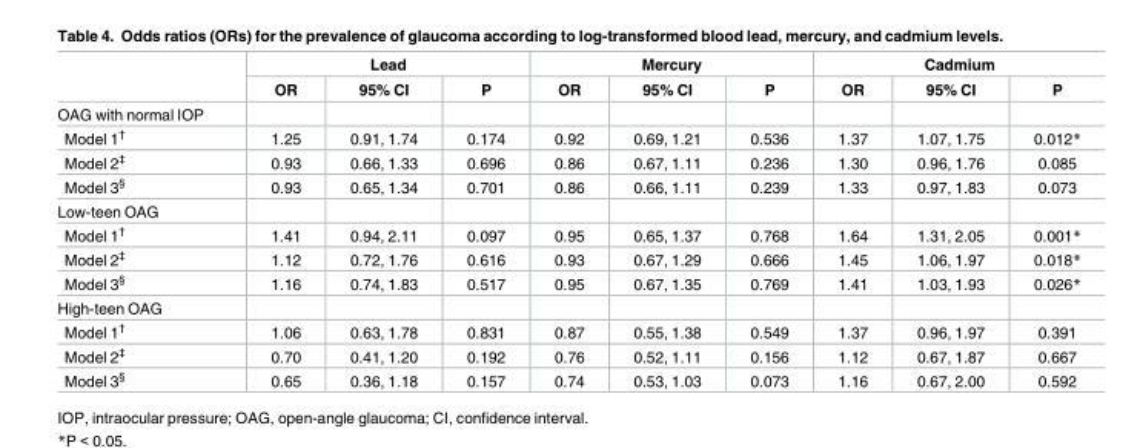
<table><thead><tr><td rowspan="2"></td><td colspan="3">Lead</td><td colspan="3">Mercury</td><td colspan="3">Cadmium</td></tr><tr><td>OR</td><td>95% CI</td><td>P</td><td>OR</td><td>95% CI</td><td>P</td><td>OR</td><td>95% CI</td><td>P</td></tr></thead><tbody><tr><td colspan="10">OAG with normal IOP</td></tr><tr><td>Model 1<sup>†</sup></td><td>1.25</td><td>0.91, 1.74</td><td>0.174</td><td>0.92</td><td>0.69, 1.21</td><td>0.536</td><td>1.37</td><td>1.07, 1.75</td><td>0.012*</td></tr><tr><td>Model 2<sup>‡</sup></td><td>0.93</td><td>0.66, 1.33</td><td>0.696</td><td>0.86</td><td>0.67, 1.11</td><td>0.236</td><td>1.30</td><td>0.96, 1.76</td><td>0.085</td></tr><tr><td>Model 3<sup>§</sup></td><td>0.93</td><td>0.65, 1.34</td><td>0.701</td><td>0.86</td><td>0.66, 1.11</td><td>0.239</td><td>1.33</td><td>0.97, 1.83</td><td>0.073</td></tr><tr><td colspan="10">Low-teen OAG</td></tr><tr><td>Model 1<sup>†</sup></td><td>1.41</td><td>0.94, 2.11</td><td>0.097</td><td>0.95</td><td>0.65, 1.37</td><td>0.768</td><td>1.64</td><td>1.31, 2.05</td><td>0.001*</td></tr><tr><td>Model 2<sup>‡</sup></td><td>1.12</td><td>0.72, 1.76</td><td>0.616</td><td>0.93</td><td>0.67, 1.29</td><td>0.666</td><td>1.45</td><td>1.06, 1.97</td><td>0.018*</td></tr><tr><td>Model 3<sup>§</sup></td><td>1.16</td><td>0.74, 1.83</td><td>0.517</td><td>0.95</td><td>0.67, 1.35</td><td>0.769</td><td>1.41</td><td>1.03, 1.93</td><td>0.026*</td></tr><tr><td colspan="10">High-teen OAG</td></tr><tr><td>Model 1<sup>†</sup></td><td>1.06</td><td>0.63, 1.78</td><td>0.831</td><td>0.87</td><td>0.55, 1.38</td><td>0.549</td><td>1.37</td><td>0.96, 1.97</td><td>0.391</td></tr><tr><td>Model 2<sup>‡</sup></td><td>0.70</td><td>0.41, 1.20</td><td>0.192</td><td>0.76</td><td>0.52, 1.11</td><td>0.156</td><td>1.12</td><td>0.67, 1.87</td><td>0.667</td></tr><tr><td>Model 3<sup>§</sup></td><td>0.65</td><td>0.36, 1.18</td><td>0.157</td><td>0.74</td><td>0.53, 1.03</td><td>0.073</td><td>1.16</td><td>0.67, 2.00</td><td>0.592</td></tr></tbody></table>